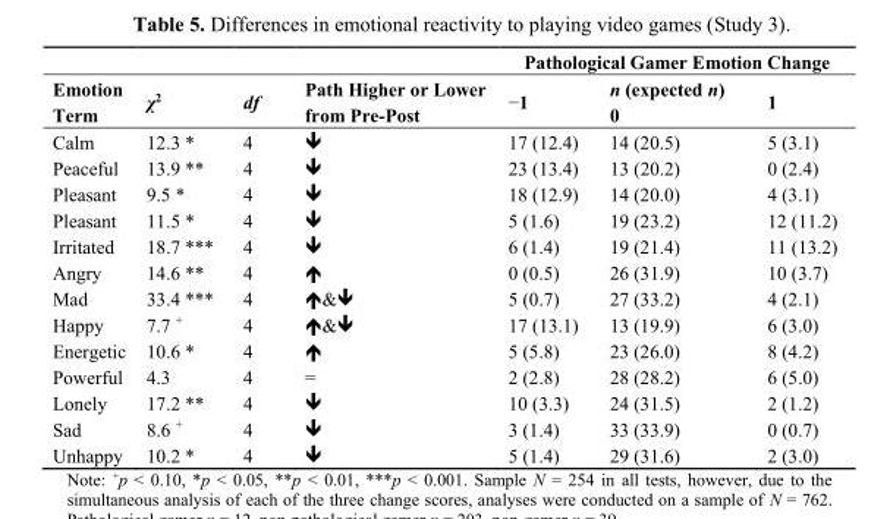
<table><thead><tr><td rowspan="2">Emotion Term</td><td rowspan="2">χ<sup>2</sup></td><td rowspan="2">df</td><td rowspan="2">Path Higher or Lower from Pre-Post</td><td colspan="3">Pathological Gamer Emotion Change</td></tr><tr><td>−1</td><td>n (expected n) 0</td><td>1</td></tr></thead><tbody><tr><td>Calm</td><td>12.3 *</td><td>4</td><td>⬇</td><td>17 (12.4)</td><td>14 (20.5)</td><td>5 (3.1)</td></tr><tr><td>Peaceful</td><td>13.9 **</td><td>4</td><td>⬇</td><td>23 (13.4)</td><td>13 (20.2)</td><td>0 (2.4)</td></tr><tr><td>Pleasant</td><td>9.5 *</td><td>4</td><td>⬇</td><td>18 (12.9)</td><td>14 (20.0)</td><td>4 (3.1)</td></tr><tr><td>Pleasant</td><td>11.5 *</td><td>4</td><td>⬇</td><td>5 (1.6)</td><td>19 (23.2)</td><td>12 (11.2)</td></tr><tr><td>Irritated</td><td>18.7 ***</td><td>4</td><td>⬇</td><td>6 (1.4)</td><td>19 (21.4)</td><td>11 (13.2)</td></tr><tr><td>Angry</td><td>14.6 **</td><td>4</td><td>⬆</td><td>0 (0.5)</td><td>26 (31.9)</td><td>10 (3.7)</td></tr><tr><td>Mad</td><td>33.4 ***</td><td>4</td><td>⬆&amp;⬇</td><td>5 (0.7)</td><td>27 (33.2)</td><td>4 (2.1)</td></tr><tr><td>Happy</td><td>7.7 <sup>+</sup></td><td>4</td><td>⬆&amp;⬇</td><td>17 (13.1)</td><td>13 (19.9)</td><td>6 (3.0)</td></tr><tr><td>Energetic</td><td>10.6 *</td><td>4</td><td>⬆</td><td>5 (5.8)</td><td>23 (26.0)</td><td>8 (4.2)</td></tr><tr><td>Powerful</td><td>4.3</td><td>4</td><td>=</td><td>2 (2.8)</td><td>28 (28.2)</td><td>6 (5.0)</td></tr><tr><td>Lonely</td><td>17.2 **</td><td>4</td><td>⬇</td><td>10 (3.3)</td><td>24 (31.5)</td><td>2 (1.2)</td></tr><tr><td>Sad</td><td>8.6 <sup>+</sup></td><td>4</td><td>⬇</td><td>3 (1.4)</td><td>33 (33.9)</td><td>0 (0.7)</td></tr><tr><td>Unhappy</td><td>10.2 *</td><td>4</td><td>⬇</td><td>5 (1.4)</td><td>29 (31.6)</td><td>2 (3.0)</td></tr></tbody></table>